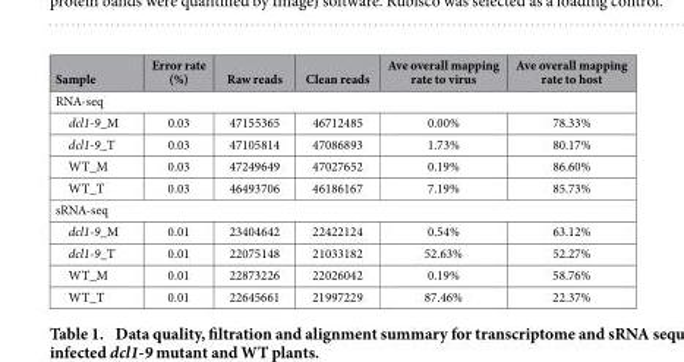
<table><thead><tr><td>Sample</td><td>Error rate (%)</td><td>Raw reads</td><td>Clean reads</td><td>Ave overall mapping rate to virus</td><td>Ave overall mapping rate to host</td></tr></thead><tbody><tr><td colspan="6">RNA-seq</td></tr><tr><td>dcl1-9_M</td><td>0.03</td><td>47155365</td><td>46712485</td><td>0.00%</td><td>78.33%</td></tr><tr><td>dcl1-9_T</td><td>0.03</td><td>47105814</td><td>47086893</td><td>1.73%</td><td>80.17%</td></tr><tr><td>WT_M</td><td>0.03</td><td>47249649</td><td>47027652</td><td>0.19%</td><td>86.60%</td></tr><tr><td>WT_T</td><td>0.03</td><td>46493706</td><td>46186167</td><td>7.19%</td><td>85.73%</td></tr><tr><td colspan="6">sRNA-seq</td></tr><tr><td>dcl1-9_M</td><td>0.01</td><td>23404642</td><td>22422124</td><td>0.54%</td><td>63.12%</td></tr><tr><td>dcl1-9_T</td><td>0.01</td><td>22075148</td><td>21033182</td><td>52.63%</td><td>52.27%</td></tr><tr><td>WT_M</td><td>0.01</td><td>22873226</td><td>22026042</td><td>0.19%</td><td>58.76%</td></tr><tr><td>WT_T</td><td>0.01</td><td>22645661</td><td>21997229</td><td>87.46%</td><td>22.37%</td></tr></tbody></table>